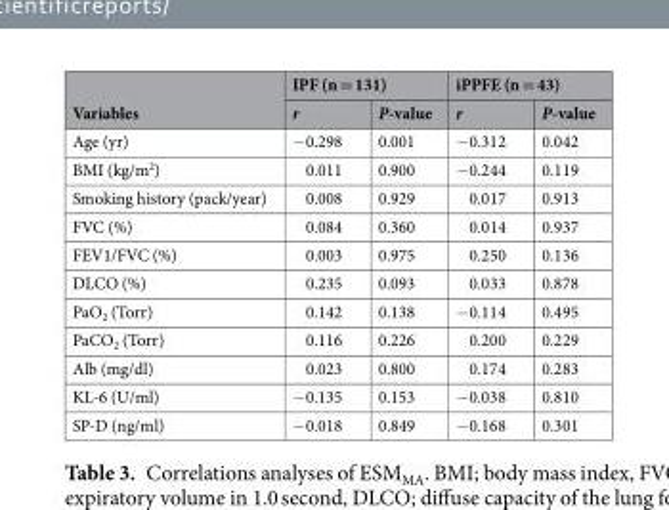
<table><thead><tr><td rowspan="2">Variables</td><td colspan="2">IPF (n = 131)</td><td colspan="2">iPPFE (n = 43)</td></tr><tr><td>r</td><td>P-value</td><td>r</td><td>P-value</td></tr></thead><tbody><tr><td>Age (yr)</td><td>−0.298</td><td>0.001</td><td>−0.312</td><td>0.042</td></tr><tr><td>BMI (kg/m<sup>2</sup>)</td><td>0.011</td><td>0.900</td><td>−0.244</td><td>0.119</td></tr><tr><td>Smoking history (pack/year)</td><td>0.008</td><td>0.929</td><td>0.017</td><td>0.913</td></tr><tr><td>FVC (%)</td><td>0.084</td><td>0.360</td><td>0.014</td><td>0.937</td></tr><tr><td>FEV1/FVC (%)</td><td>0.003</td><td>0.975</td><td>0.250</td><td>0.136</td></tr><tr><td>DLCO (%)</td><td>0.235</td><td>0.093</td><td>0.033</td><td>0.878</td></tr><tr><td>PaO<sub>2</sub> (Torr)</td><td>0.142</td><td>0.138</td><td>−0.114</td><td>0.495</td></tr><tr><td>PaCO<sub>2</sub> (Torr)</td><td>0.116</td><td>0.226</td><td>0.200</td><td>0.229</td></tr><tr><td>Alb (mg/dl)</td><td>0.023</td><td>0.800</td><td>0.174</td><td>0.283</td></tr><tr><td>KL-6 (U/ml)</td><td>−0.135</td><td>0.153</td><td>−0.038</td><td>0.810</td></tr><tr><td>SP-D (ng/ml)</td><td>−0.018</td><td>0.849</td><td>−0.168</td><td>0.301</td></tr></tbody></table>